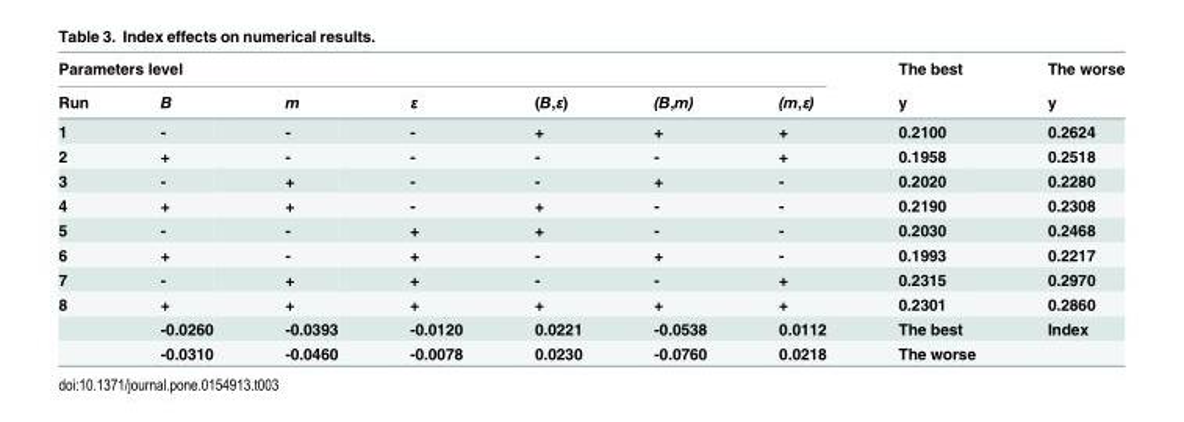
<table><thead><tr><td colspan="7">Parameters level</td><td rowspan="2">The best y</td><td rowspan="2">The worse y</td></tr><tr><td>Run</td><td>B</td><td>m</td><td>ε</td><td>(B,ε)</td><td>(B,m)</td><td>(m,ε)</td></tr></thead><tbody><tr><td>1</td><td>-</td><td>-</td><td>-</td><td>+</td><td>+</td><td>+</td><td>0.2100</td><td>0.2624</td></tr><tr><td>2</td><td>+</td><td>-</td><td>-</td><td>-</td><td>-</td><td>+</td><td>0.1958</td><td>0.2518</td></tr><tr><td>3</td><td>-</td><td>+</td><td>-</td><td>-</td><td>+</td><td>-</td><td>0.2020</td><td>0.2280</td></tr><tr><td>4</td><td>+</td><td>+</td><td>-</td><td>+</td><td>-</td><td>-</td><td>0.2190</td><td>0.2308</td></tr><tr><td>5</td><td>-</td><td>-</td><td>+</td><td>+</td><td>-</td><td>-</td><td>0.2030</td><td>0.2468</td></tr><tr><td>6</td><td>+</td><td>-</td><td>+</td><td>-</td><td>+</td><td>-</td><td>0.1993</td><td>0.2217</td></tr><tr><td>7</td><td>-</td><td>+</td><td>+</td><td>-</td><td>-</td><td>+</td><td>0.2315</td><td>0.2970</td></tr><tr><td rowspan="3">8</td><td>+</td><td>+</td><td>+</td><td>+</td><td>+</td><td>+</td><td>0.2301</td><td>0.2860</td></tr><tr><td>-0.0260</td><td>-0.0393</td><td>-0.0120</td><td>0.0221</td><td>-0.0538</td><td>0.0112</td><td>The best</td><td>Index</td></tr><tr><td>-0.0310</td><td>-0.0460</td><td>-0.0078</td><td>0.0230</td><td>-0.0760</td><td>0.0218</td><td>The worse</td><td></td></tr></tbody></table>